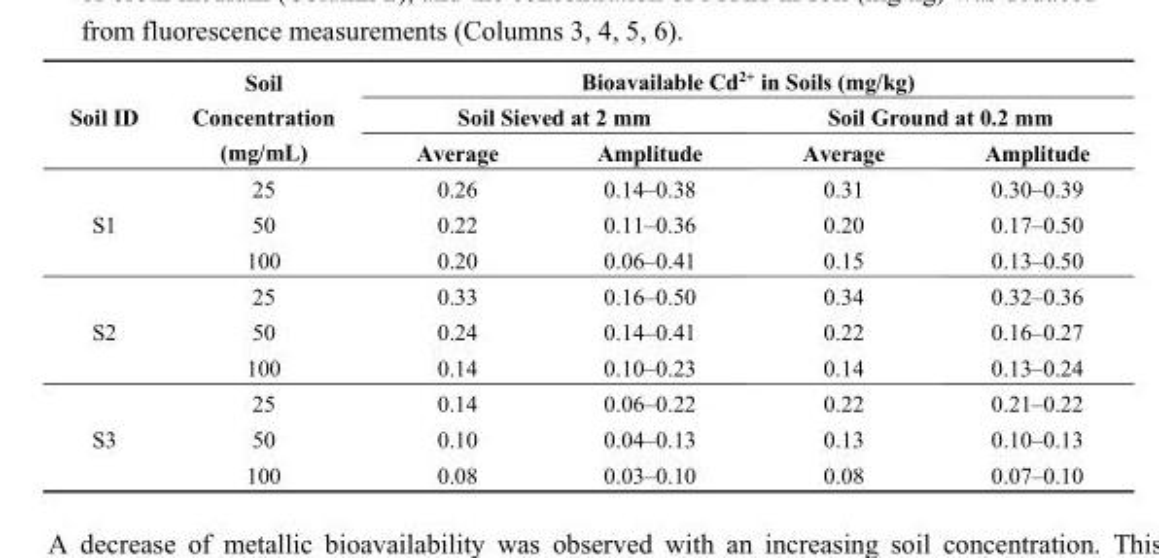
<table><thead><tr><td rowspan="3">Soil ID</td><td rowspan="3">Soil Concentration (mg/mL)</td><td colspan="4">Bioavailable Cd<sup>2+</sup> in Soils (mg/kg)</td></tr><tr><td colspan="2">Soil Sieved at 2 mm</td><td colspan="2">Soil Ground at 0.2 mm</td></tr><tr><td>Average</td><td>Amplitude</td><td>Average</td><td>Amplitude</td></tr></thead><tbody><tr><td rowspan="3">S1</td><td>25</td><td>0.26</td><td>0.14–0.38</td><td>0.31</td><td>0.30–0.39</td></tr><tr><td>50</td><td>0.22</td><td>0.11–0.36</td><td>0.20</td><td>0.17–0.50</td></tr><tr><td>100</td><td>0.20</td><td>0.06–0.41</td><td>0.15</td><td>0.13–0.50</td></tr><tr><td rowspan="3">S2</td><td>25</td><td>0.33</td><td>0.16–0.50</td><td>0.34</td><td>0.32–0.36</td></tr><tr><td>50</td><td>0.24</td><td>0.14–0.41</td><td>0.22</td><td>0.16–0.27</td></tr><tr><td>100</td><td>0.14</td><td>0.10–0.23</td><td>0.14</td><td>0.13–0.24</td></tr><tr><td rowspan="3">S3</td><td>25</td><td>0.14</td><td>0.06–0.22</td><td>0.22</td><td>0.21–0.22</td></tr><tr><td>50</td><td>0.10</td><td>0.04–0.13</td><td>0.13</td><td>0.10–0.13</td></tr><tr><td>100</td><td>0.08</td><td>0.03–0.10</td><td>0.08</td><td>0.07–0.10</td></tr></tbody></table>